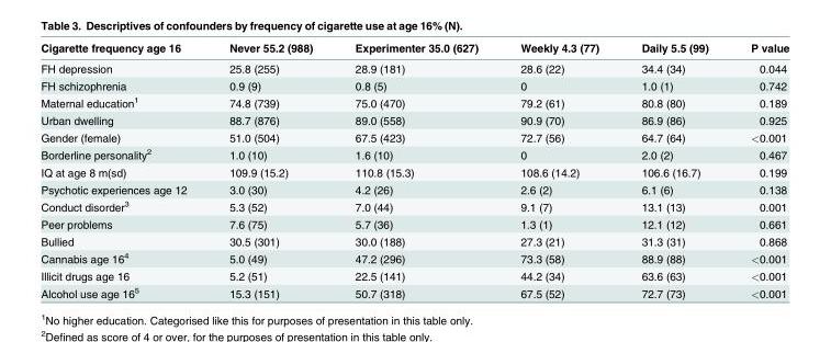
<table><thead><tr><td>Cigarette frequency age 16</td><td>Never 55.2 (988)</td><td>Experimenter 35.0 (627)</td><td>Weekly 4.3 (77)</td><td>Daily 5.5 (99)</td><td>P value</td></tr></thead><tbody><tr><td>FH depression</td><td>25.8 (255)</td><td>28.9 (181)</td><td>28.6 (22)</td><td>34.4 (34)</td><td>0.044</td></tr><tr><td>FH schizophrenia</td><td>0.9 (9)</td><td>0.8 (5)</td><td>0</td><td>1.0 (1)</td><td>0.742</td></tr><tr><td>Maternal education<sup>1</sup></td><td>74.8 (739)</td><td>75.0 (470)</td><td>79.2 (61)</td><td>80.8 (80)</td><td>0.189</td></tr><tr><td>Urban dwelling</td><td>88.7 (876)</td><td>89.0 (558)</td><td>90.9 (70)</td><td>86.9 (86)</td><td>0.925</td></tr><tr><td>Gender (female)</td><td>51.0 (504)</td><td>67.5 (423)</td><td>72.7 (56)</td><td>64.7 (64)</td><td>&lt;0.001</td></tr><tr><td>Borderline personality<sup>2</sup></td><td>1.0 (10)</td><td>1.6 (10)</td><td>0</td><td>2.0 (2)</td><td>0.467</td></tr><tr><td>IQ at age 8 m(sd)</td><td>109.9 (15.2)</td><td>110.8 (15.3)</td><td>108.6 (14.2)</td><td>106.6 (16.7)</td><td>0.199</td></tr><tr><td>Psychotic experiences age 12</td><td>3.0 (30)</td><td>4.2 (26)</td><td>2.6 (2)</td><td>6.1 (6)</td><td>0.138</td></tr><tr><td>Conduct disorder<sup>3</sup></td><td>5.3 (52)</td><td>7.0 (44)</td><td>9.1 (7)</td><td>13.1 (13)</td><td>0.001</td></tr><tr><td>Peer problems</td><td>7.6 (75)</td><td>5.7 (36)</td><td>1.3 (1)</td><td>12.1 (12)</td><td>0.661</td></tr><tr><td>Bullied</td><td>30.5 (301)</td><td>30.0 (188)</td><td>27.3 (21)</td><td>31.3 (31)</td><td>0.868</td></tr><tr><td>Cannabis age 16<sup>4</sup></td><td>5.0 (49)</td><td>47.2 (296)</td><td>73.3 (58)</td><td>88.9 (88)</td><td>&lt;0.001</td></tr><tr><td>Illicit drugs age 16</td><td>5.2 (51)</td><td>22.5 (141)</td><td>44.2 (34)</td><td>63.6 (63)</td><td>&lt;0.001</td></tr><tr><td>Alcohol use age 16<sup>5</sup></td><td>15.3 (151)</td><td>50.7 (318)</td><td>67.5 (52)</td><td>72.7 (73)</td><td>&lt;0.001</td></tr></tbody></table>